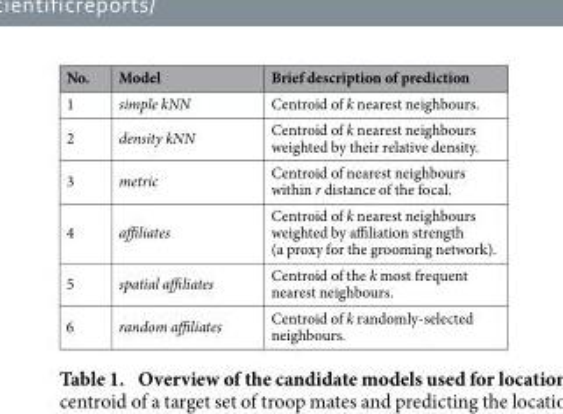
<table><thead><tr><td>No.</td><td>Model</td><td>Brief description of prediction</td></tr></thead><tbody><tr><td>1</td><td>simple kNN</td><td>Centroid of k nearest neighbours.</td></tr><tr><td>2</td><td>density kNN</td><td>Centroid of k nearest neighbours weighted by their relative density.</td></tr><tr><td>3</td><td>metric</td><td>Centroid of nearest neighbours within r distance of the focal.</td></tr><tr><td>4</td><td>affiliates</td><td>Centroid of k nearest neighbours weighted by affiliation strength (a proxy for the grooming network).</td></tr><tr><td>5</td><td>spatial affiliates</td><td>Centroid of the k most frequent nearest neighbours.</td></tr><tr><td>6</td><td>random affiliates</td><td>Centroid of k randomly-selected neighbours.</td></tr></tbody></table>